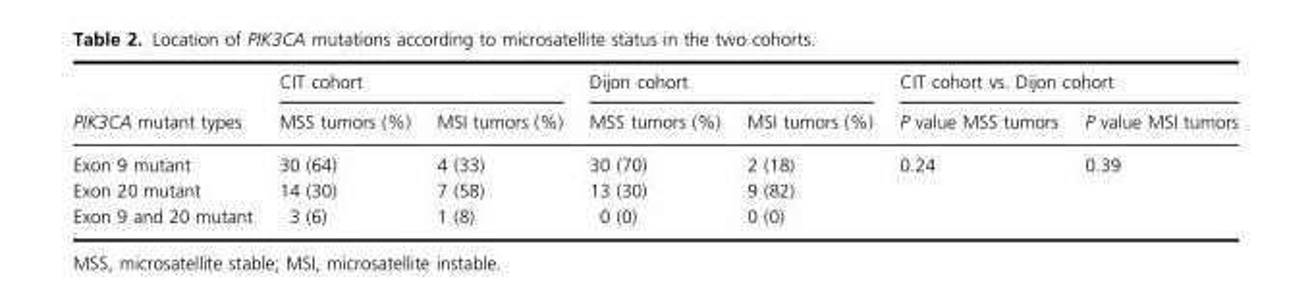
<table><thead><tr><td rowspan="2">PIK3CA mutant types</td><td colspan="2">CIT cohort</td><td colspan="2">Dijon cohort</td><td colspan="2">CIT cohort vs. Dijon cohort</td></tr><tr><td>MSS tumors (%)</td><td>MSI tumors (%)</td><td>MSS tumors (%)</td><td>MSI tumors (%)</td><td>P value MSS tumors</td><td>P value MSI tumors</td></tr></thead><tbody><tr><td>Exon 9 mutant</td><td>30 (64)</td><td>4 (33)</td><td>30 (70)</td><td>2 (18)</td><td rowspan="3">0.24</td><td rowspan="3">0.39</td></tr><tr><td>Exon 20 mutant</td><td>14 (30)</td><td>7 (58)</td><td>13 (30)</td><td>9 (82)</td></tr><tr><td>Exon 9 and 20 mutant</td><td>3 (6)</td><td>1 (8)</td><td>0 (0)</td><td>0 (0)</td></tr></tbody></table>